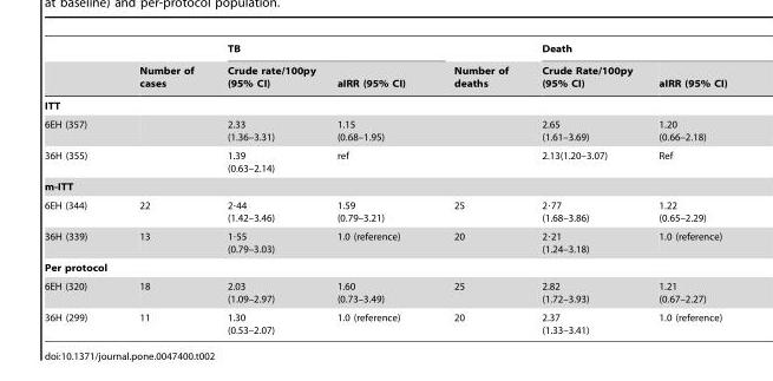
<table><thead><tr><td rowspan="2"></td><td rowspan="2">Number of cases</td><td colspan="2">TB</td><td rowspan="2">Number of deaths</td><td colspan="2">Death</td></tr><tr><td>Crude rate/100py (95% CI)</td><td>aIRR (95% CI)</td><td>Crude Rate/100py (95% CI)</td><td>aIRR (95% CI)</td></tr></thead><tbody><tr><td colspan="7">ITT</td></tr><tr><td>6EH (357)</td><td></td><td>2.33 (1.36–3.31)</td><td>1.15 (0.68–1.95)</td><td></td><td>2.65 (1.61–3.69)</td><td>1.20 (0.66–2.18)</td></tr><tr><td>36H (355)</td><td></td><td>1.39 (0.63–2.14)</td><td>ref</td><td></td><td>2.13(1.20–3.07)</td><td>Ref</td></tr><tr><td colspan="7">m-ITT</td></tr><tr><td>6EH (344)</td><td>22</td><td>2·44 (1.42–3.46)</td><td>1.59 (0.79–3.21)</td><td>25</td><td>2·77 (1.68–3.86)</td><td>1.22 (0.65–2.29)</td></tr><tr><td>36H (339)</td><td>13</td><td>1·55 (0.79–3.03)</td><td>1.0 (reference)</td><td>20</td><td>2·21 (1.24–3.18)</td><td>1.0 (reference)</td></tr><tr><td colspan="7">Per protocol</td></tr><tr><td>6EH (320)</td><td>18</td><td>2.03 (1.09–2.97)</td><td>1.60 (0.73–3.49)</td><td>25</td><td>2.82 (1.72–3.93)</td><td>1.21 (0.67–2.27)</td></tr><tr><td>36H (299)</td><td>11</td><td>1.30 (0.53–2.07)</td><td>1.0 (reference)</td><td>20</td><td>2.37 (1.33–3.41)</td><td>1.0 (reference)</td></tr></tbody></table>